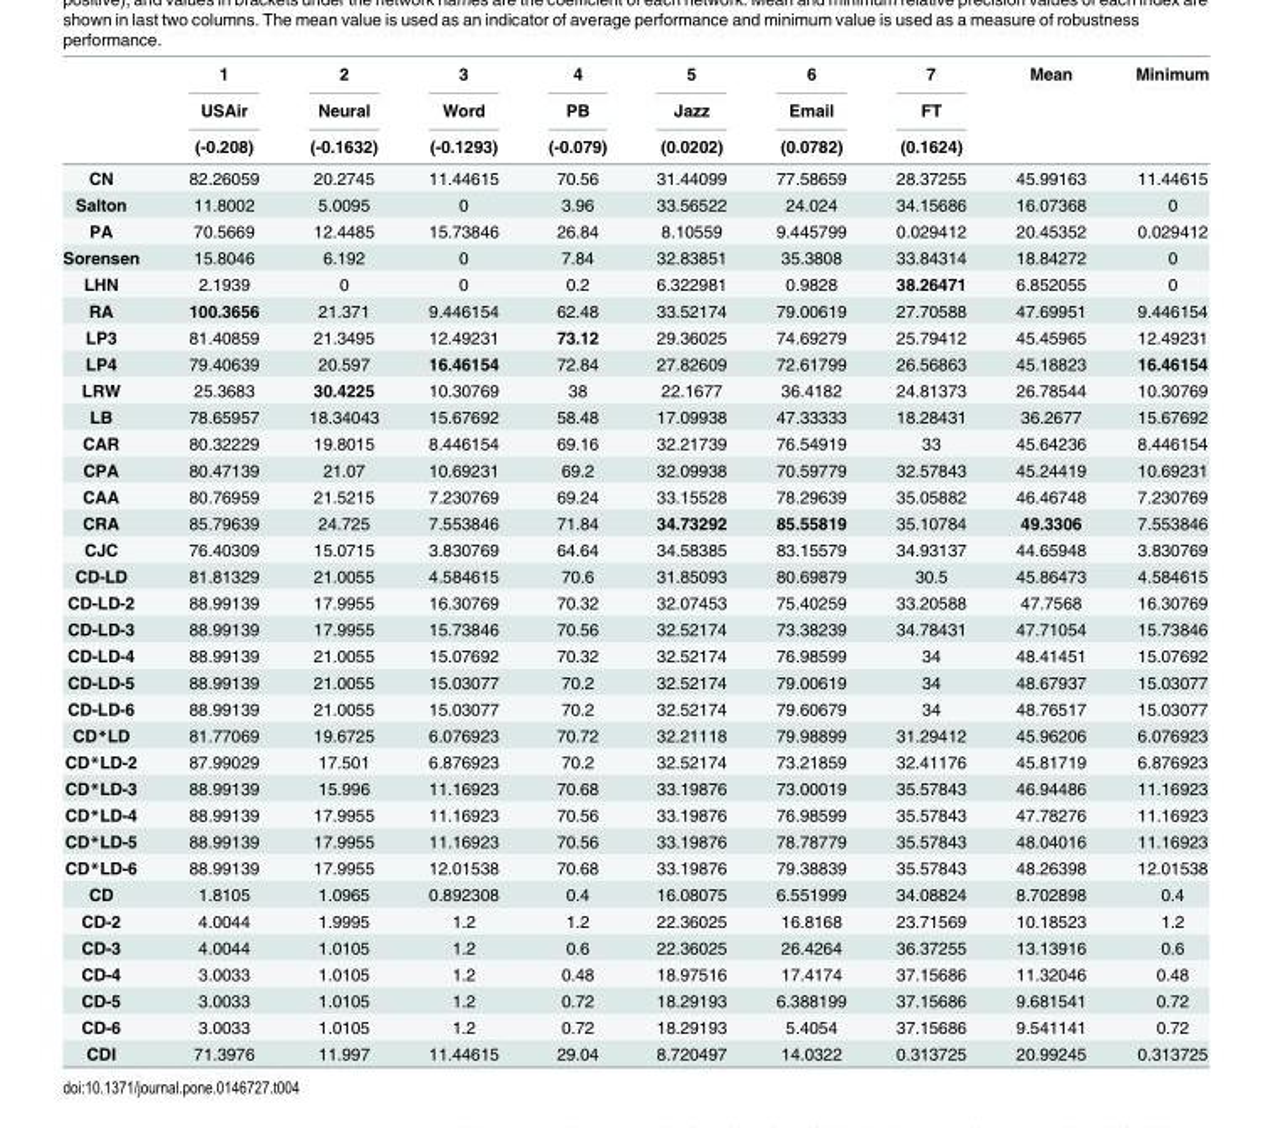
<table><thead><tr><td rowspan="3"></td><td rowspan="3">1 USAir (-0.208)</td><td rowspan="3">2 Neural (-0.1632)</td><td rowspan="3">3 Word (-0.1293)</td><td rowspan="3">4 PB (-0.079)</td><td rowspan="3">5 Jazz (0.0202)</td><td rowspan="3">6 Email (0.0782)</td><td rowspan="3">7 FT (0.1624)</td><td rowspan="3">Mean</td><td rowspan="3">Minimum</td></tr><tr></tr><tr></tr></thead><tbody><tr><td>CN</td><td>82.26059</td><td>20.2745</td><td>11.44615</td><td>70.56</td><td>31.44099</td><td>77.58659</td><td>28.37255</td><td>45.99163</td><td>11.44615</td></tr><tr><td>Salton</td><td>11.8002</td><td>5.0095</td><td>0</td><td>3.96</td><td>33.56522</td><td>24.024</td><td>34.15686</td><td>16.07368</td><td>0</td></tr><tr><td>PA</td><td>70.5669</td><td>12.4485</td><td>15.73846</td><td>26.84</td><td>8.10559</td><td>9.445799</td><td>0.029412</td><td>20.45352</td><td>0.029412</td></tr><tr><td>Sorensen</td><td>15.8046</td><td>6.192</td><td>0</td><td>7.84</td><td>32.83851</td><td>35.3808</td><td>33.84314</td><td>18.84272</td><td>0</td></tr><tr><td>LHN</td><td>2.1939</td><td>0</td><td>0</td><td>0.2</td><td>6.322981</td><td>0.9828</td><td>38.26471</td><td>6.852055</td><td>0</td></tr><tr><td>RA</td><td>100.3656</td><td>21.371</td><td>9.446154</td><td>62.48</td><td>33.52174</td><td>79.00619</td><td>27.70588</td><td>47.69951</td><td>9.446154</td></tr><tr><td>LP3</td><td>81.40859</td><td>21.3495</td><td>12.49231</td><td>73.12</td><td>29.36025</td><td>74.69279</td><td>25.79412</td><td>45.45965</td><td>12.49231</td></tr><tr><td>LP4</td><td>79.40639</td><td>20.597</td><td>16.46154</td><td>72.84</td><td>27.82609</td><td>72.61799</td><td>26.56863</td><td>45.18823</td><td>16.46154</td></tr><tr><td>LRW</td><td>25.3683</td><td>30.4225</td><td>10.30769</td><td>38</td><td>22.1677</td><td>36.4182</td><td>24.81373</td><td>26.78544</td><td>10.30769</td></tr><tr><td>LB</td><td>78.65957</td><td>18.34043</td><td>15.67692</td><td>58.48</td><td>17.09938</td><td>47.33333</td><td>18.28431</td><td>36.2677</td><td>15.67692</td></tr><tr><td>CAR</td><td>80.32229</td><td>19.8015</td><td>8.446154</td><td>69.16</td><td>32.21739</td><td>76.54919</td><td>33</td><td>45.64236</td><td>8.446154</td></tr><tr><td>CPA</td><td>80.47139</td><td>21.07</td><td>10.69231</td><td>69.2</td><td>32.09938</td><td>70.59779</td><td>32.57843</td><td>45.24419</td><td>10.69231</td></tr><tr><td>CAA</td><td>80.76959</td><td>21.5215</td><td>7.230769</td><td>69.24</td><td>33.15528</td><td>78.29639</td><td>35.05882</td><td>46.46748</td><td>7.230769</td></tr><tr><td>CRA</td><td>85.79639</td><td>24.725</td><td>7.553846</td><td>71.84</td><td>34.73292</td><td>85.55819</td><td>35.10784</td><td>49.3306</td><td>7.553846</td></tr><tr><td>CJC</td><td>76.40309</td><td>15.0715</td><td>3.830769</td><td>64.64</td><td>34.58385</td><td>83.15579</td><td>34.93137</td><td>44.65948</td><td>3.830769</td></tr><tr><td>CD-LD</td><td>81.81329</td><td>21.0055</td><td>4.584615</td><td>70.6</td><td>31.85093</td><td>80.69879</td><td>30.5</td><td>45.86473</td><td>4.584615</td></tr><tr><td>CD-LD-2</td><td>88.99139</td><td>17.9955</td><td>16.30769</td><td>70.32</td><td>32.07453</td><td>75.40259</td><td>33.20588</td><td>47.7568</td><td>16.30769</td></tr><tr><td>CD-LD-3</td><td>88.99139</td><td>17.9955</td><td>15.73846</td><td>70.56</td><td>32.52174</td><td>73.38239</td><td>34.78431</td><td>47.71054</td><td>15.73846</td></tr><tr><td>CD-LD-4</td><td>88.99139</td><td>21.0055</td><td>15.07692</td><td>70.32</td><td>32.52174</td><td>76.98599</td><td>34</td><td>48.41451</td><td>15.07692</td></tr><tr><td>CD-LD-5</td><td>88.99139</td><td>21.0055</td><td>15.03077</td><td>70.2</td><td>32.52174</td><td>79.00619</td><td>34</td><td>48.67937</td><td>15.03077</td></tr><tr><td>CD-LD-6</td><td>88.99139</td><td>21.0055</td><td>15.03077</td><td>70.2</td><td>32.52174</td><td>79.60679</td><td>34</td><td>48.76517</td><td>15.03077</td></tr><tr><td>CD*LD</td><td>81.77069</td><td>19.6725</td><td>6.076923</td><td>70.72</td><td>32.21118</td><td>79.98899</td><td>31.29412</td><td>45.96206</td><td>6.076923</td></tr><tr><td>CD*LD-2</td><td>87.99029</td><td>17.501</td><td>6.876923</td><td>70.2</td><td>32.52174</td><td>73.21859</td><td>32.41176</td><td>45.81719</td><td>6.876923</td></tr><tr><td>CD*LD-3</td><td>88.99139</td><td>15.996</td><td>11.16923</td><td>70.68</td><td>33.19876</td><td>73.00019</td><td>35.57843</td><td>46.94486</td><td>11.16923</td></tr><tr><td>CD*LD-4</td><td>88.99139</td><td>17.9955</td><td>11.16923</td><td>70.56</td><td>33.19876</td><td>76.98599</td><td>35.57843</td><td>47.78276</td><td>11.16923</td></tr><tr><td>CD*LD-5</td><td>88.99139</td><td>17.9955</td><td>11.16923</td><td>70.56</td><td>33.19876</td><td>78.78779</td><td>35.57843</td><td>48.04016</td><td>11.16923</td></tr><tr><td>CD*LD-6</td><td>88.99139</td><td>17.9955</td><td>12.01538</td><td>70.68</td><td>33.19876</td><td>79.38839</td><td>35.57843</td><td>48.26398</td><td>12.01538</td></tr><tr><td>CD</td><td>1.8105</td><td>1.0965</td><td>0.892308</td><td>0.4</td><td>16.08075</td><td>6.551999</td><td>34.08824</td><td>8.702898</td><td>0.4</td></tr><tr><td>CD-2</td><td>4.0044</td><td>1.9995</td><td>1.2</td><td>1.2</td><td>22.36025</td><td>16.8168</td><td>23.71569</td><td>10.18523</td><td>1.2</td></tr><tr><td>CD-3</td><td>4.0044</td><td>1.0105</td><td>1.2</td><td>0.6</td><td>22.36025</td><td>26.4264</td><td>36.37255</td><td>13.13916</td><td>0.6</td></tr><tr><td>CD-4</td><td>3.0033</td><td>1.0105</td><td>1.2</td><td>0.48</td><td>18.97516</td><td>17.4174</td><td>37.15686</td><td>11.32046</td><td>0.48</td></tr><tr><td>CD-5</td><td>3.0033</td><td>1.0105</td><td>1.2</td><td>0.72</td><td>18.29193</td><td>6.388199</td><td>37.15686</td><td>9.681541</td><td>0.72</td></tr><tr><td>CD-6</td><td>3.0033</td><td>1.0105</td><td>1.2</td><td>0.72</td><td>18.29193</td><td>5.4054</td><td>37.15686</td><td>9.541141</td><td>0.72</td></tr><tr><td>CDI</td><td>71.3976</td><td>11.997</td><td>11.44615</td><td>29.04</td><td>8.720497</td><td>14.0322</td><td>0.313725</td><td>20.99245</td><td>0.313725</td></tr></tbody></table>